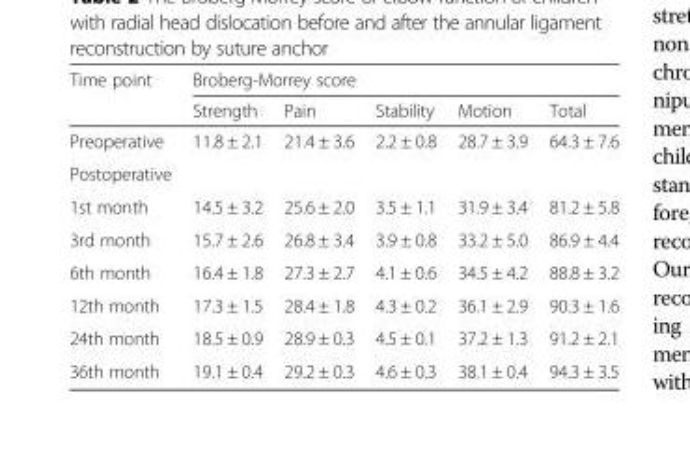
<table><thead><tr><td rowspan="2">Time point</td><td colspan="5">Broberg-Morrey score</td></tr><tr><td>Strength</td><td>Pain</td><td>Stability</td><td>Motion</td><td>Total</td></tr></thead><tbody><tr><td>Preoperative</td><td>11.8 ± 2.1</td><td>21.4 ± 3.6</td><td>2.2 ± 0.8</td><td>28.7 ± 3.9</td><td>64.3 ± 7.6</td></tr><tr><td colspan="6">Postoperative</td></tr><tr><td>1st month</td><td>14.5 ± 3.2</td><td>25.6 ± 2.0</td><td>3.5 ± 1.1</td><td>31.9 ± 3.4</td><td>81.2 ± 5.8</td></tr><tr><td>3rd month</td><td>15.7 ± 2.6</td><td>26.8 ± 3.4</td><td>3.9 ± 0.8</td><td>33.2 ± 5.0</td><td>86.9 ± 4.4</td></tr><tr><td>6th month</td><td>16.4 ± 1.8</td><td>27.3 ± 2.7</td><td>4.1 ± 0.6</td><td>34.5 ± 4.2</td><td>88.8 ± 3.2</td></tr><tr><td>12th month</td><td>17.3 ± 1.5</td><td>28.4 ± 1.8</td><td>4.3 ± 0.2</td><td>36.1 ± 2.9</td><td>90.3 ± 1.6</td></tr><tr><td>24th month</td><td>18.5 ± 0.9</td><td>28.9 ± 0.3</td><td>4.5 ± 0.1</td><td>37.2 ± 1.3</td><td>91.2 ± 2.1</td></tr><tr><td>36th month</td><td>19.1 ± 0.4</td><td>29.2 ± 0.3</td><td>4.6 ± 0.3</td><td>38.1 ± 0.4</td><td>94.3 ± 3.5</td></tr></tbody></table>